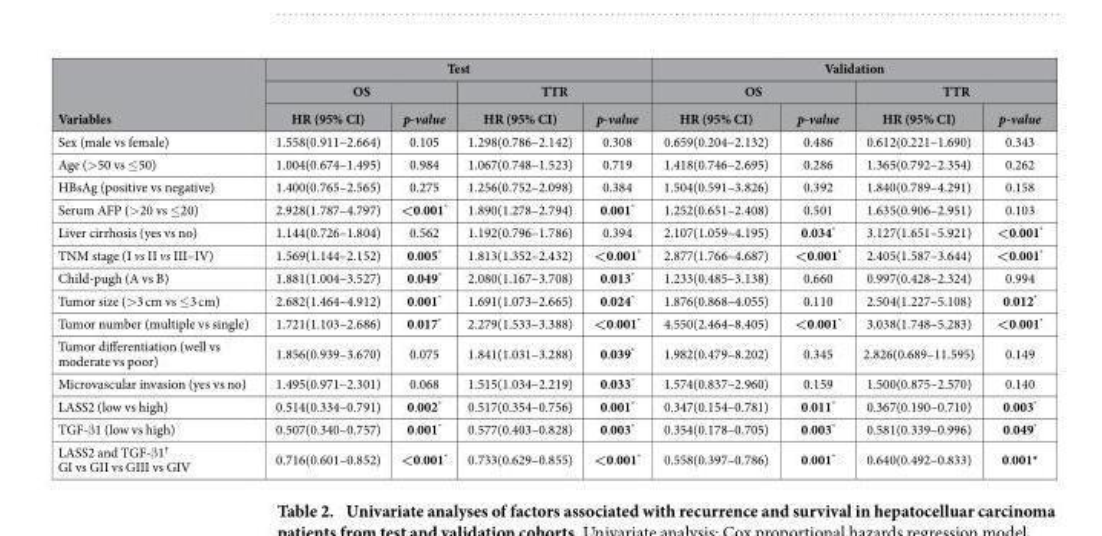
<table><thead><tr><td rowspan="3">Variables</td><td colspan="4">Test</td><td colspan="4">Validation</td></tr><tr><td colspan="2">OS</td><td colspan="2">TTR</td><td colspan="2">OS</td><td colspan="2">TTR</td></tr><tr><td>HR (95% CI)</td><td>p-value</td><td>HR (95% CI)</td><td>p-value</td><td>HR (95% CI)</td><td>p-value</td><td>HR (95% CI)</td><td>p-value</td></tr></thead><tbody><tr><td>Sex (male vs female)</td><td>1.558(0.911–2.664)</td><td>0.105</td><td>1.298(0.786–2.142)</td><td>0.308</td><td>0.659(0.204–2.132)</td><td>0.486</td><td>0.612(0.221–1.690)</td><td>0.343</td></tr><tr><td>Age (&gt; 50 vs ≤ 50)</td><td>1.004(0.674–1.495)</td><td>0.984</td><td>1.067(0.748–1.523)</td><td>0.719</td><td>1.418(0.746–2.695)</td><td>0.286</td><td>1.365(0.792–2.354)</td><td>0.262</td></tr><tr><td>HBsAg (positive vs negative)</td><td>1.400(0.765–2.565)</td><td>0.275</td><td>1.256(0.752–2.098)</td><td>0.384</td><td>1.504(0.591–3.826)</td><td>0.392</td><td>1.840(0.789–4.291)</td><td>0.158</td></tr><tr><td>Serum AFP (&gt; 20 vs ≤ 20)</td><td>2.928(1.787–4.797)</td><td>&lt;0.001*</td><td>1.890(1.278–2.794)</td><td>0.001*</td><td>1.252(0.651–2.408)</td><td>0.501</td><td>1.635(0.906–2.951)</td><td>0.103</td></tr><tr><td>Liver cirrhosis (yes vs no)</td><td>1.144(0.726–1.804)</td><td>0.562</td><td>1.192(0.796–1.786)</td><td>0.394</td><td>2.107(1.059–4.195)</td><td>0.034*</td><td>3.127(1.651–5.921)</td><td>&lt;0.001*</td></tr><tr><td>TNM stage (I vs II vs III–IV)</td><td>1.569(1.144–2.152)</td><td>0.005*</td><td>1.813(1.352–2.432)</td><td>&lt;0.001*</td><td>2.877(1.766–4.687)</td><td>&lt;0.001*</td><td>2.405(1.587–3.644)</td><td>&lt;0.001*</td></tr><tr><td>Child-pugh (A vs B)</td><td>1.881(1.004–3.527)</td><td>0.049*</td><td>2.080(1.167–3.708)</td><td>0.013*</td><td>1.233(0.485–3.138)</td><td>0.660</td><td>0.997(0.428–2.324)</td><td>0.994</td></tr><tr><td>Tumor size (&gt; 3 cm vs ≤ 3 cm)</td><td>2.682(1.464–4.912)</td><td>0.001*</td><td>1.691(1.073–2.665)</td><td>0.024*</td><td>1.876(0.868–4.055)</td><td>0.110</td><td>2.504(1.227–5.108)</td><td>0.012*</td></tr><tr><td>Tumor number (multiple vs single)</td><td>1.721(1.103–2.686)</td><td>0.017*</td><td>2.279(1.533–3.388)</td><td>&lt;0.001*</td><td>4.550(2.464–8.405)</td><td>&lt;0.001*</td><td>3.038(1.748–5.283)</td><td>&lt;0.001*</td></tr><tr><td>Tumor differentiation (well vs moderate vs poor)</td><td>1.856(0.939–3.670)</td><td>0.075</td><td>1.841(1.031–3.288)</td><td>0.039*</td><td>1.982(0.479–8.202)</td><td>0.345</td><td>2.826(0.689–11.595)</td><td>0.149</td></tr><tr><td>Microvascular invasion (yes vs no)</td><td>1.495(0.971–2.301)</td><td>0.068</td><td>1.515(1.034–2.219)</td><td>0.033*</td><td>1.574(0.837–2.960)</td><td>0.159</td><td>1.500(0.875–2.570)</td><td>0.140</td></tr><tr><td>LASS2 (low vs high)</td><td>0.514(0.334–0.791)</td><td>0.002*</td><td>0.517(0.354–0.756)</td><td>0.001*</td><td>0.347(0.154–0.781)</td><td>0.011*</td><td>0.367(0.190–0.710)</td><td>0.003*</td></tr><tr><td>TGF-β 1 (low vs high)</td><td>0.507(0.340–0.757)</td><td>0.001*</td><td>0.577(0.403–0.828)</td><td>0.003*</td><td>0.354(0.178–0.705)</td><td>0.003*</td><td>0.581(0.339–0.996)</td><td>0.049*</td></tr><tr><td>LASS2 and TGF-β 1† GI vs GII vs GIII vs GIV</td><td>0.716(0.601–0.852)</td><td>&lt;0.001*</td><td>0.733(0.629–0.855)</td><td>&lt;0.001*</td><td>0.558(0.397–0.786)</td><td>0.001*</td><td>0.640(0.492–0.833)</td><td>0.001*</td></tr></tbody></table>